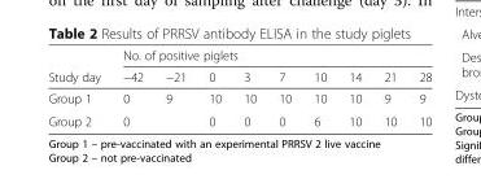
<table><thead><tr><td rowspan="2">Study day</td><td colspan="9">No. of positive piglets</td></tr><tr><td>−42</td><td>−21</td><td>0</td><td>3</td><td>7</td><td>10</td><td>14</td><td>21</td><td>28</td></tr></thead><tbody><tr><td>Group 1</td><td>0</td><td>9</td><td>10</td><td>10</td><td>10</td><td>10</td><td>10</td><td>9</td><td>9</td></tr><tr><td>Group 2</td><td>0</td><td></td><td>0</td><td>0</td><td>0</td><td>6</td><td>10</td><td>10</td><td>10</td></tr></tbody></table>